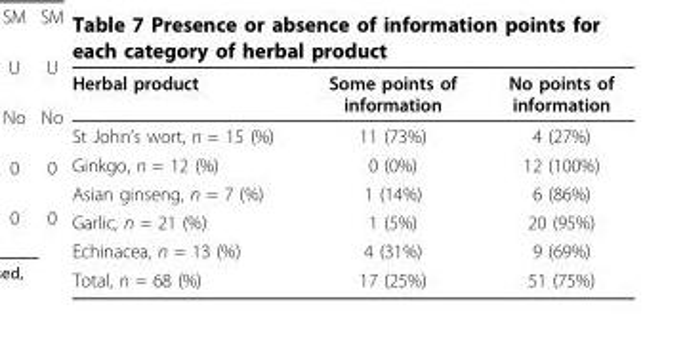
<table><thead><tr><td>Herbal product</td><td>Some points of information</td><td>No points of information</td></tr></thead><tbody><tr><td>St John’s wort, n = 15 (%)</td><td>11 (73%)</td><td>4 (27%)</td></tr><tr><td>Ginkgo, n = 12 (%)</td><td>0 (0%)</td><td>12 (100%)</td></tr><tr><td>Asian ginseng, n = 7 (%)</td><td>1 (14%)</td><td>6 (86%)</td></tr><tr><td>Garlic, n = 21 (%)</td><td>1 (5%)</td><td>20 (95%)</td></tr><tr><td>Echinacea, n = 13 (%)</td><td>4 (31%)</td><td>9 (69%)</td></tr><tr><td>Total, n = 68 (%)</td><td>17 (25%)</td><td>51 (75%)</td></tr></tbody></table>